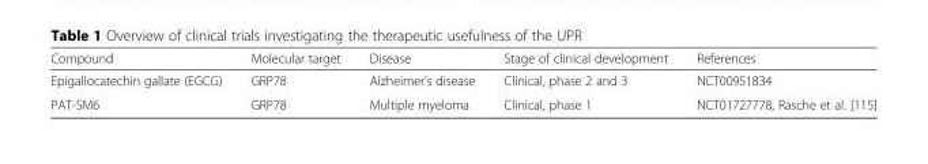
<table><thead><tr><td>Compound</td><td>Molecular target</td><td>Disease</td><td>Stage of clinical development</td><td>References</td></tr></thead><tbody><tr><td>Epigallocatechin gallate (EGCG)</td><td>GRP78</td><td>Alzheimer’s disease</td><td>Clinical, phase 2 and 3</td><td>NCT00951834</td></tr><tr><td>PAT-SM6</td><td>GRP78</td><td>Multiple myeloma</td><td>Clinical, phase 1</td><td>NCT01727778, Rasche et al. [115]</td></tr></tbody></table>